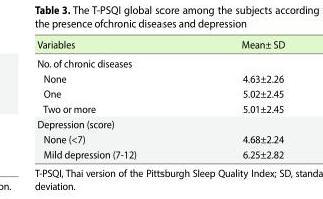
<table><thead><tr><td>Variables</td><td>Mean± SD</td></tr></thead><tbody><tr><td colspan="2">No. of chronic diseases</td></tr><tr><td>None</td><td>4.63±2.26</td></tr><tr><td>One</td><td>5.02±2.45</td></tr><tr><td>Two or more</td><td>5.01±2.45</td></tr><tr><td colspan="2">Depression (score)</td></tr><tr><td>None (&lt;7)</td><td>4.68±2.24</td></tr><tr><td>Mild depression (7-12)</td><td>6.25±2.82</td></tr></tbody></table>